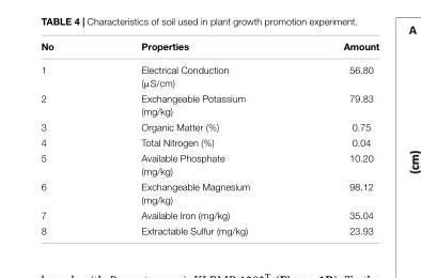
<table><thead><tr><td>No</td><td>Properties</td><td>Amount</td></tr></thead><tbody><tr><td>1</td><td>Electrical Conduction (µS/cm)</td><td>56.80</td></tr><tr><td>2</td><td>Exchangeable Potassium (mg/kg)</td><td>79.83</td></tr><tr><td>3</td><td>Organic Matter (%)</td><td>0.75</td></tr><tr><td>4</td><td>Total Nitrogen (%)</td><td>0.04</td></tr><tr><td>5</td><td>Available Phosphate (mg/kg)</td><td>10.20</td></tr><tr><td>6</td><td>Exchangeable Magnesium (mg/kg)</td><td>98.12</td></tr><tr><td>7</td><td>Available Iron (mg/kg)</td><td>35.04</td></tr><tr><td>8</td><td>Extractable Sulfur (mg/kg)</td><td>23.93</td></tr></tbody></table>